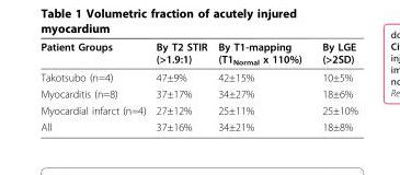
<table><thead><tr><td>Patient Groups</td><td>By T2 STIR (&gt;1.9:1)</td><td>By T1-mapping (T1<sub>Normal</sub> x 110%)</td><td>By LGE (&gt;2SD)</td></tr></thead><tbody><tr><td>Takotsubo (n=4)</td><td>47±9%</td><td>42±15%</td><td>10±5%</td></tr><tr><td>Myocarditis (n=8)</td><td>37±17%</td><td>34±27%</td><td>18±6%</td></tr><tr><td>Myocardial infarct (n=4)</td><td>27±12%</td><td>25±11%</td><td>25±10%</td></tr><tr><td>All</td><td>37±16%</td><td>34±21%</td><td>18±8%</td></tr></tbody></table>